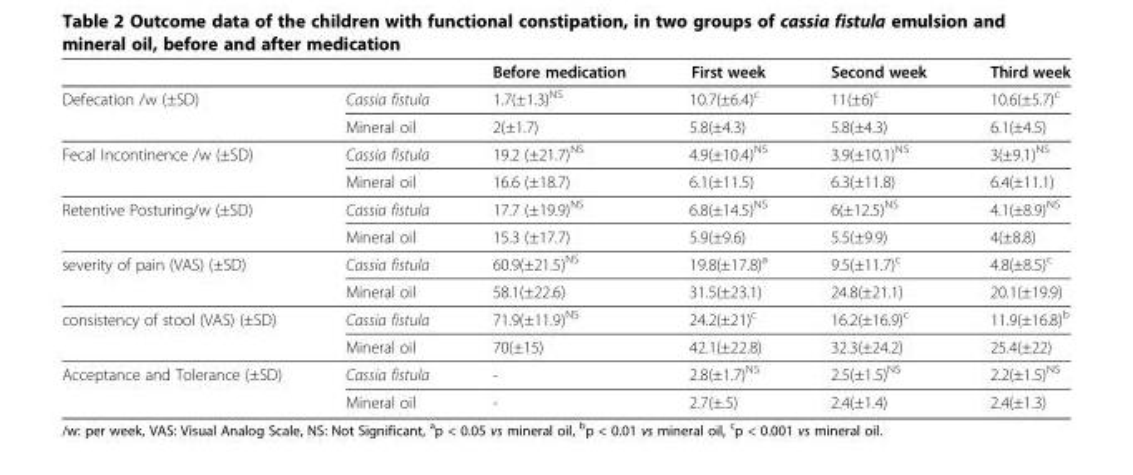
<table><thead><tr><td></td><td></td><td>Before medication</td><td>First week</td><td>Second week</td><td>Third week</td></tr></thead><tbody><tr><td rowspan="2">Defecation /w (±SD)</td><td>Cassia fistula</td><td>1.7(±1.3)<sup>NS</sup></td><td>10.7(±6.4)<sup>c</sup></td><td>11(±6)<sup>c</sup></td><td>10.6(±5.7)<sup>c</sup></td></tr><tr><td>Mineral oil</td><td>2(±1.7)</td><td>5.8(±4.3)</td><td>5.8(±4.3)</td><td>6.1(±4.5)</td></tr><tr><td rowspan="2">Fecal Incontinence /w (±SD)</td><td>Cassia fistula</td><td>19.2 (±21.7)<sup>NS</sup></td><td>4.9(±10.4)<sup>NS</sup></td><td>3.9(±10.1)<sup>NS</sup></td><td>3(±9.1)<sup>NS</sup></td></tr><tr><td>Mineral oil</td><td>16.6 (±18.7)</td><td>6.1(±11.5)</td><td>6.3(±11.8)</td><td>6.4(±11.1)</td></tr><tr><td rowspan="2">Retentive Posturing/w (±SD)</td><td>Cassia fistula</td><td>17.7 (±19.9)<sup>NS</sup></td><td>6.8(±14.5)<sup>NS</sup></td><td>6(±12.5)<sup>NS</sup></td><td>4.1(±8.9)<sup>NS</sup></td></tr><tr><td>Mineral oil</td><td>15.3 (±17.7)</td><td>5.9(±9.6)</td><td>5.5(±9.9)</td><td>4(±8.8)</td></tr><tr><td rowspan="2">severity of pain (VAS) (±SD)</td><td>Cassia fistula</td><td>60.9(±21.5)<sup>NS</sup></td><td>19.8(±17.8)<sup>a</sup></td><td>9.5(±11.7)<sup>c</sup></td><td>4.8(±8.5)<sup>c</sup></td></tr><tr><td>Mineral oil</td><td>58.1(±22.6)</td><td>31.5(±23.1)</td><td>24.8(±21.1)</td><td>20.1(±19.9)</td></tr><tr><td rowspan="2">consistency of stool (VAS) (±SD)</td><td>Cassia fistula</td><td>71.9(±11.9)<sup>NS</sup></td><td>24.2(±21)<sup>c</sup></td><td>16.2(±16.9)<sup>c</sup></td><td>11.9(±16.8)<sup>b</sup></td></tr><tr><td>Mineral oil</td><td>70(±15)</td><td>42.1(±22.8)</td><td>32.3(±24.2)</td><td>25.4(±22)</td></tr><tr><td rowspan="2">Acceptance and Tolerance (±SD)</td><td>Cassia fistula</td><td>-</td><td>2.8(±1.7)<sup>NS</sup></td><td>2.5(±1.5)<sup>NS</sup></td><td>2.2(±1.5)<sup>NS</sup></td></tr><tr><td>Mineral oil</td><td>-</td><td>2.7(±.5)</td><td>2.4(±1.4)</td><td>2.4(±1.3)</td></tr></tbody></table>